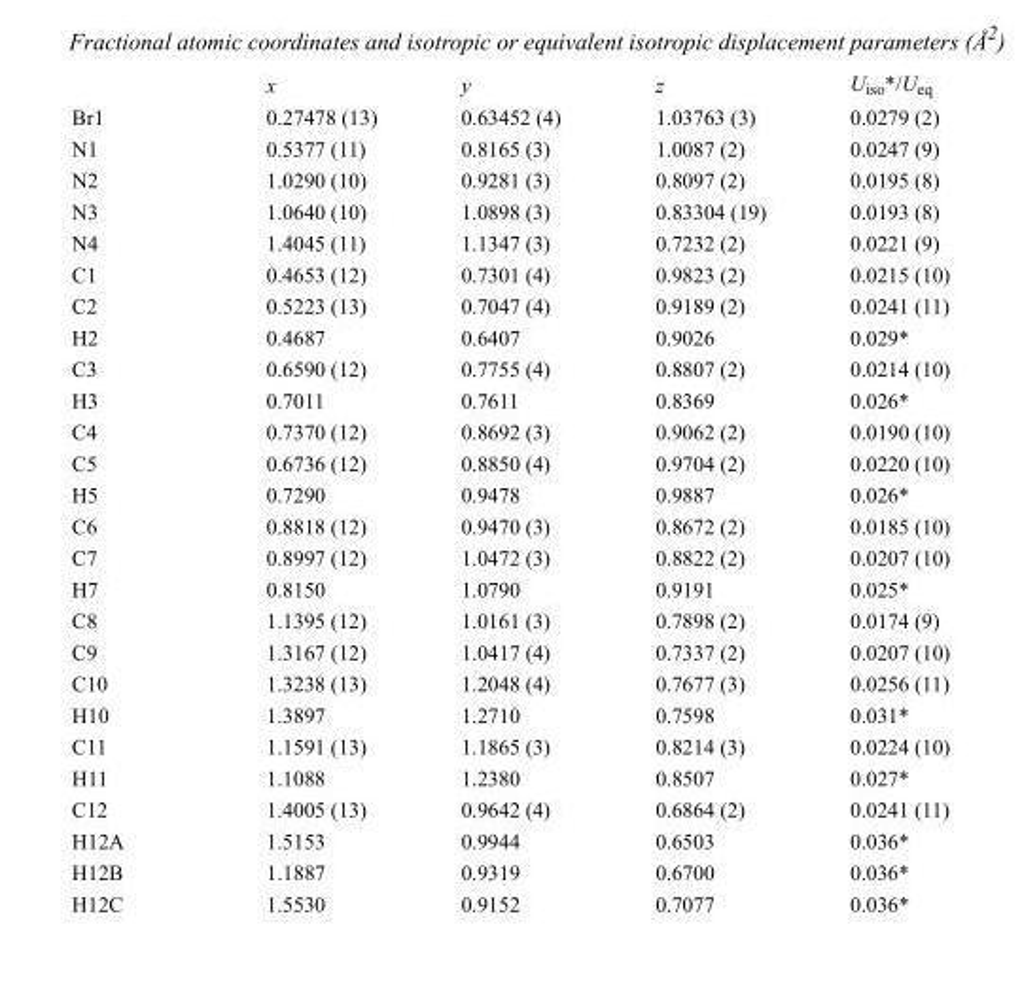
<table><thead><tr><td></td><td>x</td><td>y</td><td>z</td><td>U<sub>iso</sub>*/U<sub>eq</sub></td></tr></thead><tbody><tr><td>Br1</td><td>0.27478 (13)</td><td>0.63452 (4)</td><td>1.03763 (3)</td><td>0.0279 (2)</td></tr><tr><td>N1</td><td>0.5377 (11)</td><td>0.8165 (3)</td><td>1.0087 (2)</td><td>0.0247 (9)</td></tr><tr><td>N2</td><td>1.0290 (10)</td><td>0.9281 (3)</td><td>0.8097 (2)</td><td>0.0195 (8)</td></tr><tr><td>N3</td><td>1.0640 (10)</td><td>1.0898 (3)</td><td>0.83304 (19)</td><td>0.0193 (8)</td></tr><tr><td>N4</td><td>1.4045 (11)</td><td>1.1347 (3)</td><td>0.7232 (2)</td><td>0.0221 (9)</td></tr><tr><td>C1</td><td>0.4653 (12)</td><td>0.7301 (4)</td><td>0.9823 (2)</td><td>0.0215 (10)</td></tr><tr><td>C2</td><td>0.5223 (13)</td><td>0.7047 (4)</td><td>0.9189 (2)</td><td>0.0241 (11)</td></tr><tr><td>H2</td><td>0.4687</td><td>0.6407</td><td>0.9026</td><td>0.029*</td></tr><tr><td>C3</td><td>0.6590 (12)</td><td>0.7755 (4)</td><td>0.8807 (2)</td><td>0.0214 (10)</td></tr><tr><td>H3</td><td>0.7011</td><td>0.7611</td><td>0.8369</td><td>0.026*</td></tr><tr><td>C4</td><td>0.7370 (12)</td><td>0.8692 (3)</td><td>0.9062 (2)</td><td>0.0190 (10)</td></tr><tr><td>C5</td><td>0.6736 (12)</td><td>0.8850 (4)</td><td>0.9704 (2)</td><td>0.0220 (10)</td></tr><tr><td>H5</td><td>0.7290</td><td>0.9478</td><td>0.9887</td><td>0.026*</td></tr><tr><td>C6</td><td>0.8818 (12)</td><td>0.9470 (3)</td><td>0.8672 (2)</td><td>0.0185 (10)</td></tr><tr><td>C7</td><td>0.8997 (12)</td><td>1.0472 (3)</td><td>0.8822 (2)</td><td>0.0207 (10)</td></tr><tr><td>H7</td><td>0.8150</td><td>1.0790</td><td>0.9191</td><td>0.025*</td></tr><tr><td>C8</td><td>1.1395 (12)</td><td>1.0161 (3)</td><td>0.7898 (2)</td><td>0.0174 (9)</td></tr><tr><td>C9</td><td>1.3167 (12)</td><td>1.0417 (4)</td><td>0.7337 (2)</td><td>0.0207 (10)</td></tr><tr><td>C10</td><td>1.3238 (13)</td><td>1.2048 (4)</td><td>0.7677 (3)</td><td>0.0256 (11)</td></tr><tr><td>H10</td><td>1.3897</td><td>1.2710</td><td>0.7598</td><td>0.031*</td></tr><tr><td>C11</td><td>1.1591 (13)</td><td>1.1865 (3)</td><td>0.8214 (3)</td><td>0.0224 (10)</td></tr><tr><td>H11</td><td>1.1088</td><td>1.2380</td><td>0.8507</td><td>0.027*</td></tr><tr><td>C12</td><td>1.4005 (13)</td><td>0.9642 (4)</td><td>0.6864 (2)</td><td>0.0241 (11)</td></tr><tr><td>H12A</td><td>1.5153</td><td>0.9944</td><td>0.6503</td><td>0.036*</td></tr><tr><td>H12B</td><td>1.1887</td><td>0.9319</td><td>0.6700</td><td>0.036*</td></tr><tr><td>H12C</td><td>1.5530</td><td>0.9152</td><td>0.7077</td><td>0.036*</td></tr></tbody></table>